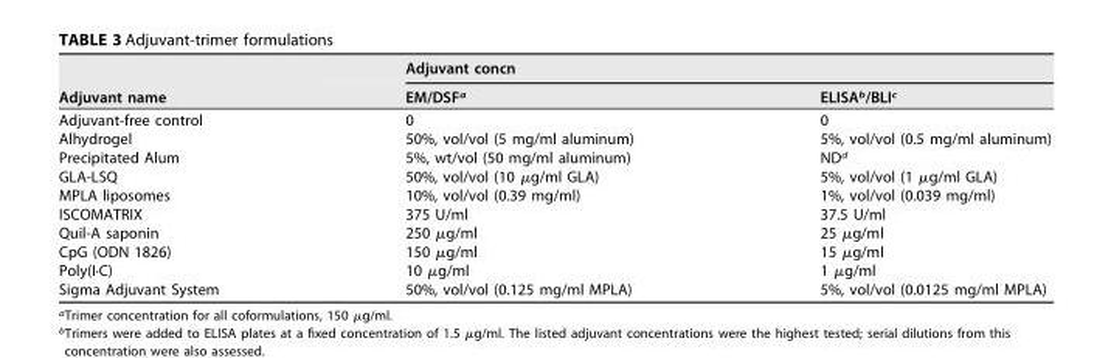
<table><thead><tr><td rowspan="2">Adjuvant name</td><td colspan="2">Adjuvant concn</td></tr><tr><td>EM/DSF<sup>a</sup></td><td>ELISA<sup>b</sup>/BLI<sup>c</sup></td></tr></thead><tbody><tr><td>Adjuvant-free control</td><td>0</td><td>0</td></tr><tr><td>Alhydrogel</td><td>50%, vol/vol (5 mg/ml aluminum)</td><td>5%, vol/vol (0.5 mg/ml aluminum)</td></tr><tr><td>Precipitated Alum</td><td>5%, wt/vol (50 mg/ml aluminum)</td><td>ND<sup>d</sup></td></tr><tr><td>GLA-LSQ</td><td>50%, vol/vol (10 μg/ml GLA)</td><td>5%, vol/vol (1 μg/ml GLA)</td></tr><tr><td>MPLA liposomes</td><td>10%, vol/vol (0.39 mg/ml)</td><td>1%, vol/vol (0.039 mg/ml)</td></tr><tr><td>ISCOMATRIX</td><td>375 U/ml</td><td>37.5 U/ml</td></tr><tr><td>Quil-A saponin</td><td>250 μg/ml</td><td>25 μg/ml</td></tr><tr><td>CpG (ODN 1826)</td><td>150 μg/ml</td><td>15 μg/ml</td></tr><tr><td>Poly(I·C)</td><td>10 μg/ml</td><td>1 μg/ml</td></tr><tr><td>Sigma Adjuvant System</td><td>50%, vol/vol (0.125 mg/ml MPLA)</td><td>5%, vol/vol (0.0125 mg/ml MPLA)</td></tr></tbody></table>